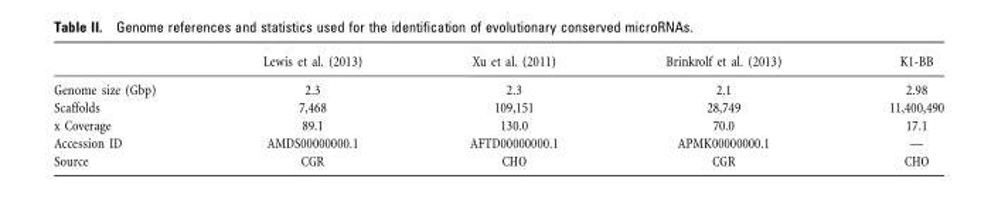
<table><thead><tr><td></td><td>Lewis et al. (2013)</td><td>Xu et al. (2011)</td><td>Brinkrolf et al. (2013)</td><td>K1-BB</td></tr></thead><tbody><tr><td>Genome size (Gbp)</td><td>2.3</td><td>2.3</td><td>2.1</td><td>2.98</td></tr><tr><td>Scaffolds</td><td>7,468</td><td>109,151</td><td>28,749</td><td>11,400,490</td></tr><tr><td>x Coverage</td><td>89.1</td><td>130.0</td><td>70.0</td><td>17.1</td></tr><tr><td>Accession ID</td><td>AMDS00000000.1</td><td>AFTD00000000.1</td><td>APMK00000000.1</td><td>—</td></tr><tr><td>Source</td><td>CGR</td><td>CHO</td><td>CGR</td><td>CHO</td></tr></tbody></table>